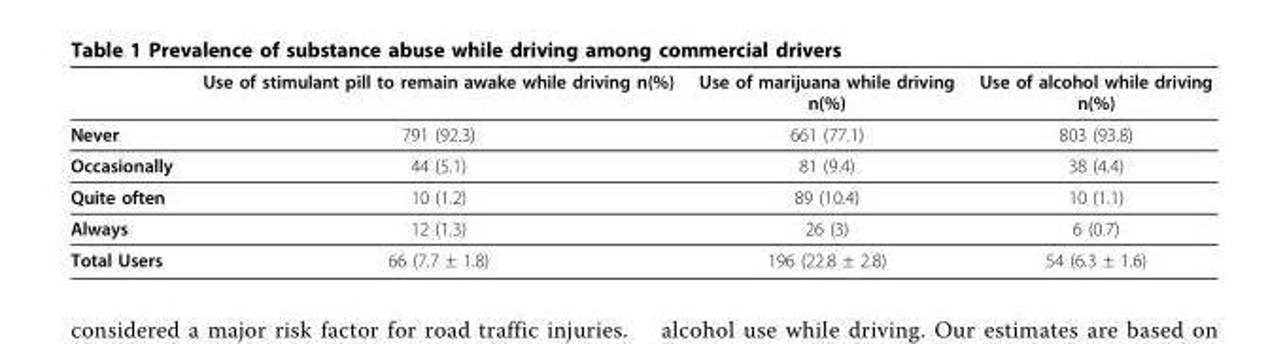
<table><thead><tr><td></td><td>Use of stimulant pill to remain awake while driving n(%)</td><td>Use of marijuana while driving n(%)</td><td>Use of alcohol while driving n(%)</td></tr></thead><tbody><tr><td>Never</td><td>791 (92.3)</td><td>661 (77.1)</td><td>803 (93.8)</td></tr><tr><td>Occasionally</td><td>44 (5.1)</td><td>81 (9.4)</td><td>38 (4.4)</td></tr><tr><td>Quite often</td><td>10 (1.2)</td><td>89 (10.4)</td><td>10 (1.1)</td></tr><tr><td>Always</td><td>12 (1.3)</td><td>26 (3)</td><td>6 (0.7)</td></tr><tr><td>Total Users</td><td>66 (7.7 ± 1.8)</td><td>196 (22.8 ± 2.8)</td><td>54 (6.3 ± 1.6)</td></tr></tbody></table>